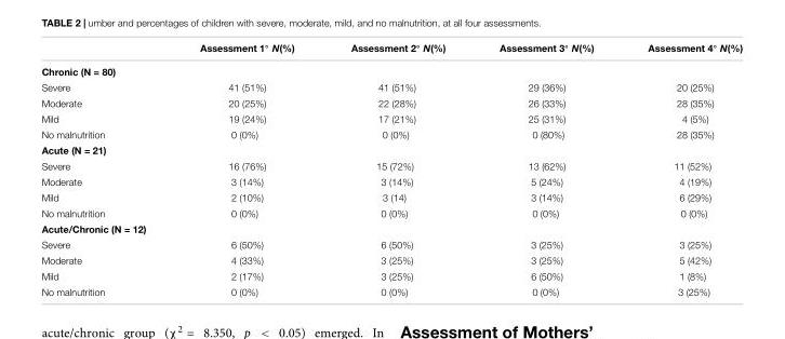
<table><thead><tr><td></td><td>Assessment 1◦ N(%)</td><td>Assessment 2◦ N(%)</td><td>Assessment 3◦ N(%)</td><td>Assessment 4◦ N(%)</td></tr></thead><tbody><tr><td colspan="5">Chronic (N = 80)</td></tr><tr><td>Severe</td><td>41 (51%)</td><td>41 (51%)</td><td>29 (36%)</td><td>20 (25%)</td></tr><tr><td>Moderate</td><td>20 (25%)</td><td>22 (28%)</td><td>26 (33%)</td><td>28 (35%)</td></tr><tr><td>Mild</td><td>19 (24%)</td><td>17 (21%)</td><td>25 (31%)</td><td>4 (5%)</td></tr><tr><td>No malnutrition</td><td>0 (0%)</td><td>0 (0%)</td><td>0 (80%)</td><td>28 (35%)</td></tr><tr><td colspan="5">Acute (N = 21)</td></tr><tr><td>Severe</td><td>16 (76%)</td><td>15 (72%)</td><td>13 (62%)</td><td>11 (52%)</td></tr><tr><td>Moderate</td><td>3 (14%)</td><td>3 (14%)</td><td>5 (24%)</td><td>4 (19%)</td></tr><tr><td>Mild</td><td>2 (10%)</td><td>3 (14)</td><td>3 (14%)</td><td>6 (29%)</td></tr><tr><td>No malnutrition</td><td>0 (0%)</td><td>0 (0%)</td><td>0 (0%)</td><td>0 (0%)</td></tr><tr><td colspan="5">Acute/Chronic (N = 12)</td></tr><tr><td>Severe</td><td>6 (50%)</td><td>6 (50%)</td><td>3 (25%)</td><td>3 (25%)</td></tr><tr><td>Moderate</td><td>4 (33%)</td><td>3 (25%)</td><td>3 (25%)</td><td>5 (42%)</td></tr><tr><td>Mild</td><td>2 (17%)</td><td>3 (25%)</td><td>6 (50%)</td><td>1 (8%)</td></tr><tr><td>No malnutrition</td><td>0 (0%)</td><td>0 (0%)</td><td>0 (0%)</td><td>3 (25%)</td></tr></tbody></table>